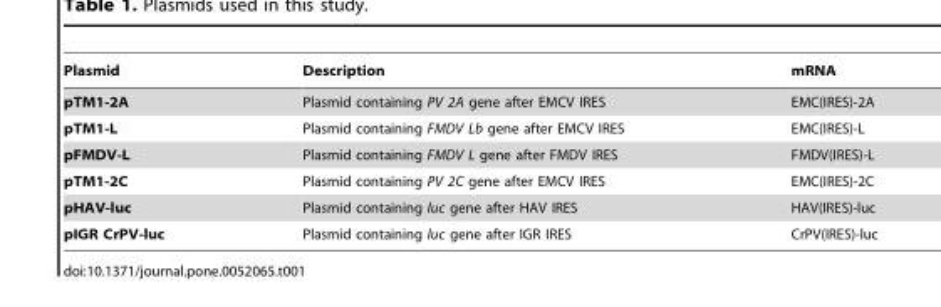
<table><thead><tr><td>Plasmid</td><td>Description</td><td>mRNA</td></tr></thead><tbody><tr><td>pTM1-2A</td><td>Plasmid containing PV 2A gene after EMCV IRES</td><td>EMC(IRES)-2A</td></tr><tr><td>pTM1-L</td><td>Plasmid containing FMDV Lb gene after EMCV IRES</td><td>EMC(IRES)-L</td></tr><tr><td>pFMDV-L</td><td>Plasmid containing FMDV L gene after FMDV IRES</td><td>FMDV(IRES)-L</td></tr><tr><td>pTM1-2C</td><td>Plasmid containing PV 2C gene after EMCV IRES</td><td>EMC(IRES)-2C</td></tr><tr><td>pHAV-luc</td><td>Plasmid containing luc gene after HAV IRES</td><td>HAV(IRES)-luc</td></tr><tr><td>pIGR CrPV-luc</td><td>Plasmid containing luc gene after IGR IRES</td><td>CrPV(IRES)-luc</td></tr></tbody></table>